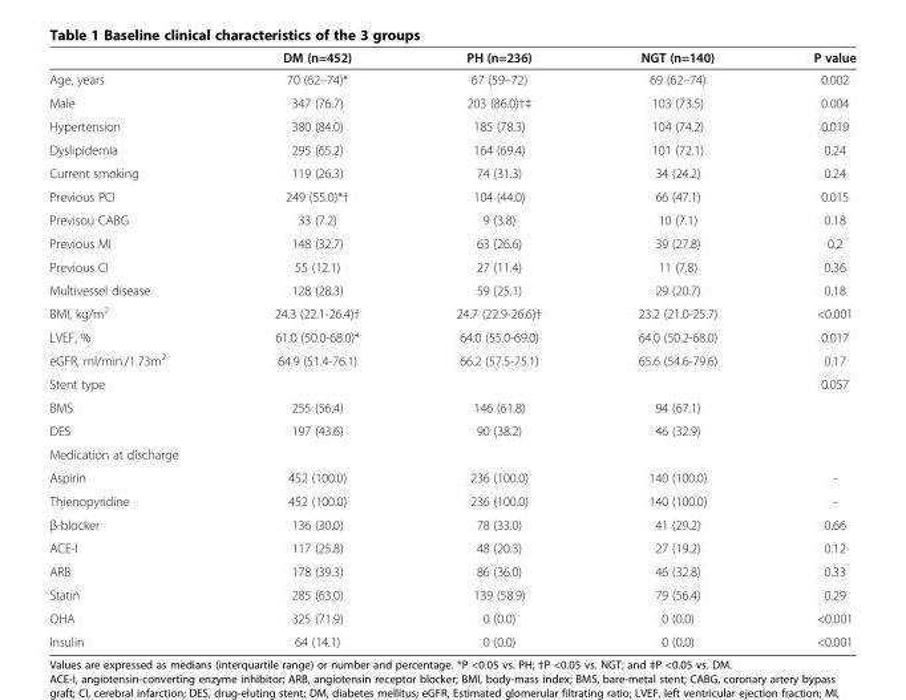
<table><thead><tr><td></td><td>DM (n=452)</td><td>PH (n=236)</td><td>NGT (n=140)</td><td>P value</td></tr></thead><tbody><tr><td>Age, years</td><td>70 (62–74)*</td><td>67 (59–72)</td><td>69 (62–74)</td><td>0.002</td></tr><tr><td>Male</td><td>347 (76.7)</td><td>203 (86.0)†‡</td><td>103 (73.5)</td><td>0.004</td></tr><tr><td>Hypertension</td><td>380 (84.0)</td><td>185 (78.3)</td><td>104 (74.2)</td><td>0.019</td></tr><tr><td>Dyslipidemia</td><td>295 (65.2)</td><td>164 (69.4)</td><td>101 (72.1)</td><td>0.24</td></tr><tr><td>Current smoking</td><td>119 (26.3)</td><td>74 (31.3)</td><td>34 (24.2)</td><td>0.24</td></tr><tr><td>Previous PCI</td><td>249 (55.0)*†</td><td>104 (44.0)</td><td>66 (47.1)</td><td>0.015</td></tr><tr><td>Previsou CABG</td><td>33 (7.2)</td><td>9 (3.8)</td><td>10 (7.1)</td><td>0.18</td></tr><tr><td>Previous MI</td><td>148 (32.7)</td><td>63 (26.6)</td><td>39 (27.8)</td><td>0.2</td></tr><tr><td>Previous CI</td><td>55 (12.1)</td><td>27 (11.4)</td><td>11 (7.8)</td><td>0.36</td></tr><tr><td>Multivessel disease</td><td>128 (28.3)</td><td>59 (25.1)</td><td>29 (20.7)</td><td>0.18</td></tr><tr><td>BMI, kg/m<sup>2</sup></td><td>24.3 (22.1-26.4)†</td><td>24.7 (22.9-26.6)†</td><td>23.2 (21.0-25.7)</td><td>&lt;0.001</td></tr><tr><td>LVEF, %</td><td>61.0 (50.0-68.0)*</td><td>64.0 (55.0-69.0)</td><td>64.0 (50.2-68.0)</td><td>0.017</td></tr><tr><td>eGFR, ml/min./1.73m<sup>2</sup></td><td>64.9 (51.4-76.1)</td><td>66.2 (57.5-75.1)</td><td>65.6 (54.6-79.6)</td><td>0.17</td></tr><tr><td>Stent type</td><td></td><td></td><td></td><td>0.057</td></tr><tr><td>BMS</td><td>255 (56.4)</td><td>146 (61.8)</td><td>94 (67.1)</td><td></td></tr><tr><td>DES</td><td>197 (43.6)</td><td>90 (38.2)</td><td>46 (32.9)</td><td></td></tr><tr><td colspan="5">Medication at discharge</td></tr><tr><td>Aspirin</td><td>452 (100.0)</td><td>236 (100.0)</td><td>140 (100.0)</td><td>-</td></tr><tr><td>Thienopyridine</td><td>452 (100.0)</td><td>236 (100.0)</td><td>140 (100.0)</td><td>-</td></tr><tr><td>β-blocker</td><td>136 (30.0)</td><td>78 (33.0)</td><td>41 (29.2)</td><td>0.66</td></tr><tr><td>ACE-I</td><td>117 (25.8)</td><td>48 (20.3)</td><td>27 (19.2)</td><td>0.12</td></tr><tr><td>ARB</td><td>178 (39.3)</td><td>86 (36.0)</td><td>46 (32.8)</td><td>0.33</td></tr><tr><td>Statin</td><td>285 (63.0)</td><td>139 (58.9)</td><td>79 (56.4)</td><td>0.29</td></tr><tr><td>OHA</td><td>325 (71.9)</td><td>0 (0.0)</td><td>0 (0.0)</td><td>&lt;0.001</td></tr><tr><td>Insulin</td><td>64 (14.1)</td><td>0 (0.0)</td><td>0 (0.0)</td><td>&lt;0.001</td></tr></tbody></table>